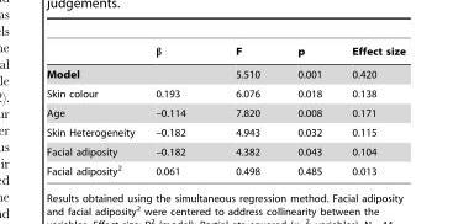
<table><thead><tr><td></td><td>β</td><td>F</td><td>p</td><td>Effect size</td></tr></thead><tbody><tr><td colspan="2">Model</td><td>5.510</td><td>0.001</td><td>0.420</td></tr><tr><td>Skin colour</td><td>0.193</td><td>6.076</td><td>0.018</td><td>0.138</td></tr><tr><td>Age</td><td>–0.114</td><td>7.820</td><td>0.008</td><td>0.171</td></tr><tr><td>Skin Heterogeneity</td><td>–0.182</td><td>4.943</td><td>0.032</td><td>0.115</td></tr><tr><td>Facial adiposity</td><td>–0.182</td><td>4.382</td><td>0.043</td><td>0.104</td></tr><tr><td>Facial adiposity<sup>2</sup></td><td>0.061</td><td>0.498</td><td>0.485</td><td>0.013</td></tr></tbody></table>